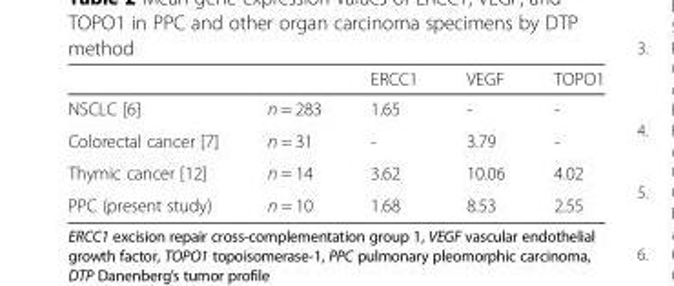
<table><thead><tr><td></td><td></td><td>ERCC1</td><td>VEGF</td><td>TOPO1</td></tr></thead><tbody><tr><td>NSCLC [6]</td><td>n = 283</td><td>1.65</td><td>-</td><td>-</td></tr><tr><td>Colorectal cancer [7]</td><td>n = 31</td><td>-</td><td>3.79</td><td>-</td></tr><tr><td>Thymic cancer [12]</td><td>n = 14</td><td>3.62</td><td>10.06</td><td>4.02</td></tr><tr><td>PPC (present study)</td><td>n = 10</td><td>1.68</td><td>8.53</td><td>2.55</td></tr></tbody></table>